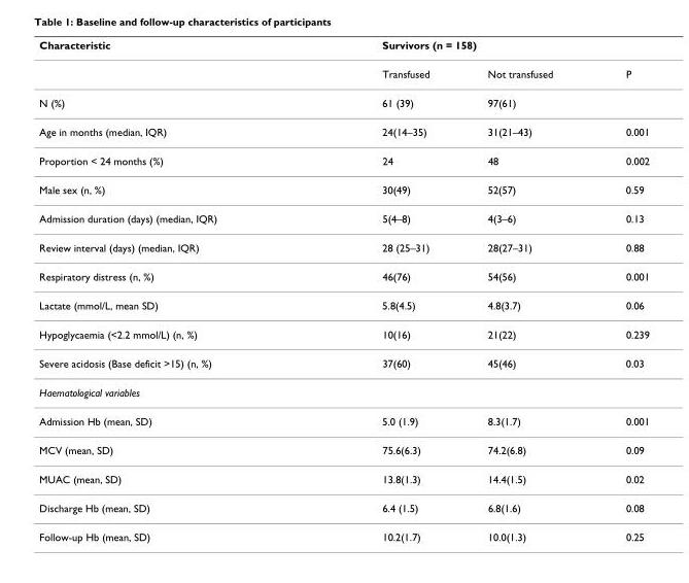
<table><thead><tr><td rowspan="2">Characteristic</td><td colspan="3">Survivors (n = 158)</td></tr><tr><td>Transfused</td><td>Not transfused</td><td>P</td></tr></thead><tbody><tr><td>N (%)</td><td>61 (39)</td><td>97(61)</td><td></td></tr><tr><td>Age in months (median, IQR)</td><td>24(14–35)</td><td>31(21–43)</td><td>0.001</td></tr><tr><td>Proportion &lt; 24 months (%)</td><td>24</td><td>48</td><td>0.002</td></tr><tr><td>Male sex (n, %)</td><td>30(49)</td><td>52(57)</td><td>0.59</td></tr><tr><td>Admission duration (days) (median, IQR)</td><td>5(4–8)</td><td>4(3–6)</td><td>0.13</td></tr><tr><td>Review interval (days) (median, IQR)</td><td>28 (25–31)</td><td>28(27–31)</td><td>0.88</td></tr><tr><td>Respiratory distress (n, %)</td><td>46(76)</td><td>54(56)</td><td>0.001</td></tr><tr><td>Lactate (mmol/L, mean SD)</td><td>5.8(4.5)</td><td>4.8(3.7)</td><td>0.06</td></tr><tr><td>Hypoglycaemia (&lt;2.2 mmol/L) (n, %)</td><td>10(16)</td><td>21(22)</td><td>0.239</td></tr><tr><td>Severe acidosis (Base deficit &gt;15) (n, %)</td><td>37(60)</td><td>45(46)</td><td>0.03</td></tr><tr><td colspan="4">Haematological variables</td></tr><tr><td>Admission Hb (mean, SD)</td><td>5.0 (1.9)</td><td>8.3(1.7)</td><td>0.001</td></tr><tr><td>MCV (mean, SD)</td><td>75.6(6.3)</td><td>74.2(6.8)</td><td>0.09</td></tr><tr><td>MUAC (mean, SD)</td><td>13.8(1.3)</td><td>14.4(1.5)</td><td>0.02</td></tr><tr><td>Discharge Hb (mean, SD)</td><td>6.4 (1.5)</td><td>6.8(1.6)</td><td>0.08</td></tr><tr><td>Follow-up Hb (mean, SD)</td><td>10.2(1.7)</td><td>10.0(1.3)</td><td>0.25</td></tr></tbody></table>